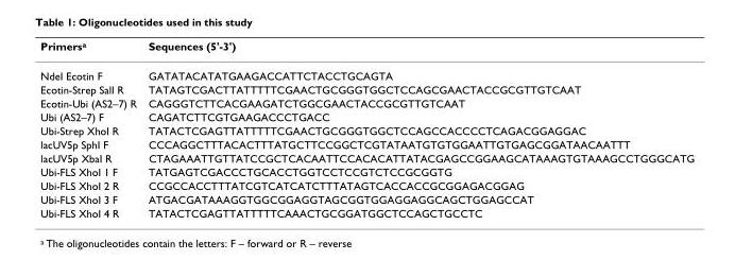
<table><thead><tr><td>Primers<sup>a</sup></td><td>Sequences (5&#x27;-3&#x27;)</td></tr></thead><tbody><tr><td>NdeI Ecotin F</td><td>GATATACATATGAAGACCATTCTACCTGCAGTA</td></tr><tr><td>Ecotin-Strep SalI R</td><td>TATAGTCGACTTATTTTTCGAACTGCGGGTGGCTCCAGCGAACTACCGCGTTGTCAAT</td></tr><tr><td>Ecotin-Ubi (AS2–7) R</td><td>CAGGGTCTTCACGAAGATCTGGCGAACTACCGCGTTGTCAAT</td></tr><tr><td>Ubi (AS2–7) F</td><td>CAGATCTTCGTGAAGACCCTGACC</td></tr><tr><td>Ubi-Strep XhoI R</td><td>TATACTCGAGTTATTTTTCGAACTGCGGGTGGCTCCAGCCACCCCTCAGACGGAGGAC</td></tr><tr><td>lacUV5p SphI F</td><td>CCCAGGCTTTACACTTTATGCTTCCGGCTCGTATAATGTGTGGAATTGTGAGCGGATAACAATTT</td></tr><tr><td>lacUV5p XbaI R</td><td>CTAGAAATTGTTATCCGCTCACAATTCCACACATTATACGAGCCGGAAGCATAAAGTGTAAAGCCTGGGCATG</td></tr><tr><td>Ubi-FLS XhoI 1 F</td><td>TATGAGTCGACCCTGCACCTGGTCCTCCGTCTCCGCGGTG</td></tr><tr><td>Ubi-FLS XhoI 2 R</td><td>CCGCCACCTTTATCGTCATCATCTTTATAGTCACCACCGCGGAGACGGAG</td></tr><tr><td>Ubi-FLS XhoI 3 F</td><td>ATGACGATAAAGGTGGCGGAGGTAGCGGTGGAGGAGGCAGCTGGAGCCAT</td></tr><tr><td>Ubi-FLS XhoI 4 R</td><td>TATACTCGAGTTATTTTTCAAACTGCGGATGGCTCCAGCTGCCTC</td></tr></tbody></table>